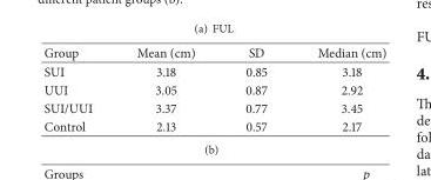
<table><thead><tr><td>Group</td><td>Mean (cm)</td><td>SD</td><td>Median (cm)</td></tr></thead><tbody><tr><td>SUI</td><td>3.18</td><td>0.85</td><td>3.18</td></tr><tr><td>UUI</td><td>3.05</td><td>0.87</td><td>2.92</td></tr><tr><td>SUI/UUI</td><td>3.37</td><td>0.77</td><td>3.45</td></tr><tr><td>Control</td><td>2.13</td><td>0.57</td><td>2.17</td></tr></tbody></table>